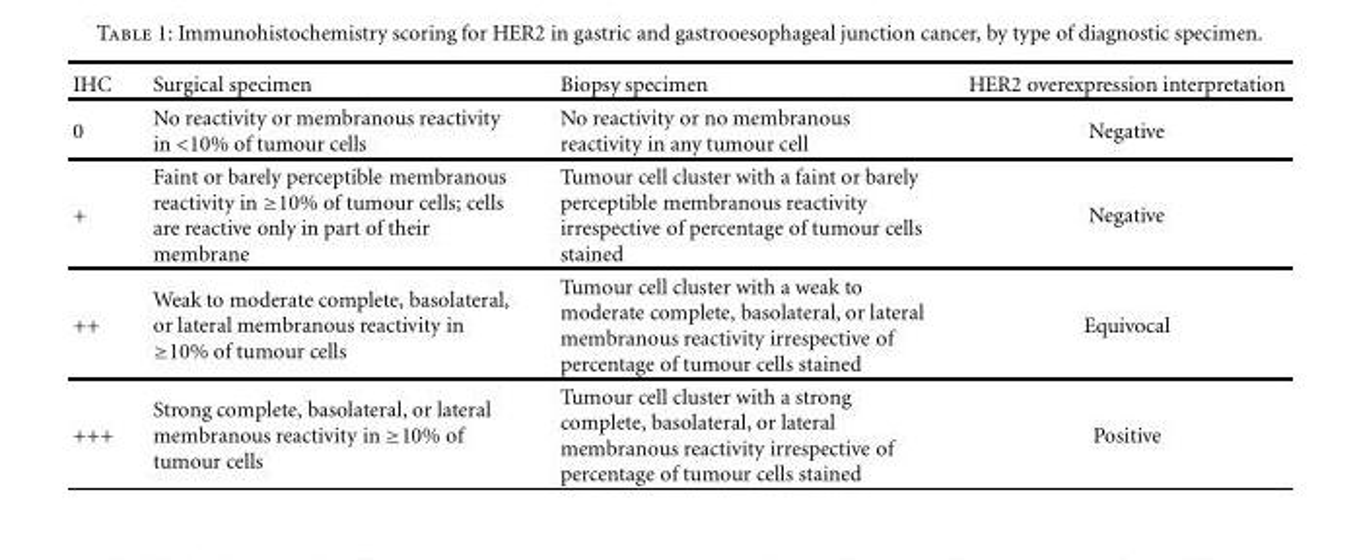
<table><thead><tr><td>IHC</td><td>Surgical specimen</td><td>Biopsy specimen</td><td>HER2 overexpression interpretation</td></tr></thead><tbody><tr><td>0</td><td>No reactivity or membranous reactivity in &lt;10% of tumour cells</td><td>No reactivity or no membranous reactivity in any tumour cell</td><td>Negative</td></tr><tr><td>+</td><td>Faint or barely perceptible membranous reactivity in ≥10% of tumour cells; cells are reactive only in part of their membrane</td><td>Tumour cell cluster with a faint or barely perceptible membranous reactivity irrespective of percentage of tumour cells stained</td><td>Negative</td></tr><tr><td>++</td><td>Weak to moderate complete, basolateral, or lateral membranous reactivity in ≥10% of tumour cells</td><td>Tumour cell cluster with a weak to moderate complete, basolateral, or lateral membranous reactivity irrespective of percentage of tumour cells stained</td><td>Equivocal</td></tr><tr><td>+++</td><td>Strong complete, basolateral, or lateral membranous reactivity in ≥10% of tumour cells</td><td>Tumour cell cluster with a strong complete, basolateral, or lateral membranous reactivity irrespective of percentage of tumour cells stained</td><td>Positive</td></tr></tbody></table>